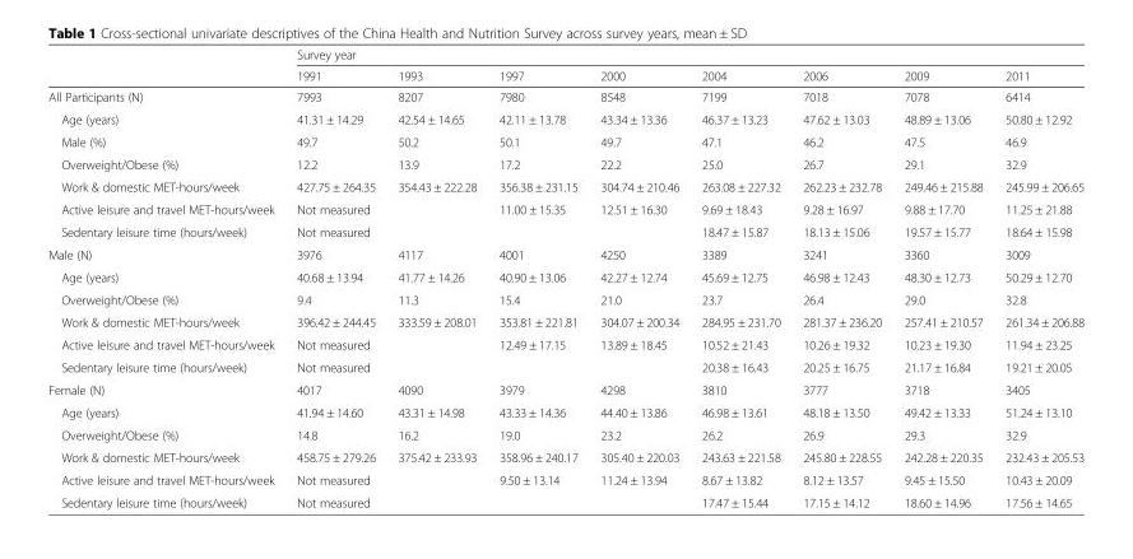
<table><thead><tr><td rowspan="2"></td><td colspan="8">Survey year</td></tr><tr><td>1991</td><td>1993</td><td>1997</td><td>2000</td><td>2004</td><td>2006</td><td>2009</td><td>2011</td></tr></thead><tbody><tr><td>All Participants (N)</td><td>7993</td><td>8207</td><td>7980</td><td>8548</td><td>7199</td><td>7018</td><td>7078</td><td>6414</td></tr><tr><td>Age (years)</td><td>41.31 ± 14.29</td><td>42.54 ± 14.65</td><td>42.11 ± 13.78</td><td>43.34 ± 13.36</td><td>46.37 ± 13.23</td><td>47.62 ± 13.03</td><td>48.89 ± 13.06</td><td>50.80 ± 12.92</td></tr><tr><td>Male (%)</td><td>49.7</td><td>50.2</td><td>50.1</td><td>49.7</td><td>47.1</td><td>46.2</td><td>47.5</td><td>46.9</td></tr><tr><td>Overweight/Obese (%)</td><td>12.2</td><td>13.9</td><td>17.2</td><td>22.2</td><td>25.0</td><td>26.7</td><td>29.1</td><td>32.9</td></tr><tr><td>Work &amp; domestic MET-hours/week</td><td>427.75 ± 264.35</td><td>354.43 ± 222.28</td><td>356.38 ± 231.15</td><td>304.74 ± 210.46</td><td>263.08 ± 227.32</td><td>262.23 ± 232.78</td><td>249.46 ± 215.88</td><td>245.99 ± 206.65</td></tr><tr><td>Active leisure and travel MET-hours/week</td><td colspan="2">Not measured</td><td>11.00 ± 15.35</td><td>12.51 ± 16.30</td><td>9.69 ± 18.43</td><td>9.28 ± 16.97</td><td>9.88 ± 17.70</td><td>11.25 ± 21.88</td></tr><tr><td>Sedentary leisure time (hours/week)</td><td colspan="4">Not measured</td><td>18.47 ± 15.87</td><td>18.13 ± 15.06</td><td>19.57 ± 15.77</td><td>18.64 ± 15.98</td></tr><tr><td>Male (N)</td><td>3976</td><td>4117</td><td>4001</td><td>4250</td><td>3389</td><td>3241</td><td>3360</td><td>3009</td></tr><tr><td>Age (years)</td><td>40.68 ± 13.94</td><td>41.77 ± 14.26</td><td>40.90 ± 13.06</td><td>42.27 ± 12.74</td><td>45.69 ± 12.75</td><td>46.98 ± 12.43</td><td>48.30 ± 12.73</td><td>50.29 ± 12.70</td></tr><tr><td>Overweight/Obese (%)</td><td>9.4</td><td>11.3</td><td>15.4</td><td>21.0</td><td>23.7</td><td>26.4</td><td>29.0</td><td>32.8</td></tr><tr><td>Work &amp; domestic MET-hours/week</td><td>396.42 ± 244.45</td><td>333.59 ± 208.01</td><td>353.81 ± 221.81</td><td>304.07 ± 200.34</td><td>284.95 ± 231.70</td><td>281.37 ± 236.20</td><td>257.41 ± 210.57</td><td>261.34 ± 206.88</td></tr><tr><td>Active leisure and travel MET-hours/week</td><td colspan="2">Not measured</td><td>12.49 ± 17.15</td><td>13.89 ± 18.45</td><td>10.52 ± 21.43</td><td>10.26 ± 19.32</td><td>10.23 ± 19.30</td><td>11.94 ± 23.25</td></tr><tr><td>Sedentary leisure time (hours/week)</td><td colspan="4">Not measured</td><td>20.38 ± 16.43</td><td>20.25 ± 16.75</td><td>21.17 ± 16.84</td><td>19.21 ± 20.05</td></tr><tr><td>Female (N)</td><td>4017</td><td>4090</td><td>3979</td><td>4298</td><td>3810</td><td>3777</td><td>3718</td><td>3405</td></tr><tr><td>Age (years)</td><td>41.94 ± 14.60</td><td>43.31 ± 14.98</td><td>43.33 ± 14.36</td><td>44.40 ± 13.86</td><td>46.98 ± 13.61</td><td>48.18 ± 13.50</td><td>49.42 ± 13.33</td><td>51.24 ± 13.10</td></tr><tr><td>Overweight/Obese (%)</td><td>14.8</td><td>16.2</td><td>19.0</td><td>23.2</td><td>26.2</td><td>26.9</td><td>29.3</td><td>32.9</td></tr><tr><td>Work &amp; domestic MET-hours/week</td><td>458.75 ± 279.26</td><td>375.42 ± 233.93</td><td>358.96 ± 240.17</td><td>305.40 ± 220.03</td><td>243.63 ± 221.58</td><td>245.80 ± 228.55</td><td>242.28 ± 220.35</td><td>232.43 ± 205.53</td></tr><tr><td>Active leisure and travel MET-hours/week</td><td colspan="2">Not measured</td><td>9.50 ± 13.14</td><td>11.24 ± 13.94</td><td>8.67 ± 13.82</td><td>8.12 ± 13.57</td><td>9.45 ± 15.50</td><td>10.43 ± 20.09</td></tr><tr><td>Sedentary leisure time (hours/week)</td><td colspan="4">Not measured</td><td>17.47 ± 15.44</td><td>17.15 ± 14.12</td><td>18.60 ± 14.96</td><td>17.56 ± 14.65</td></tr></tbody></table>